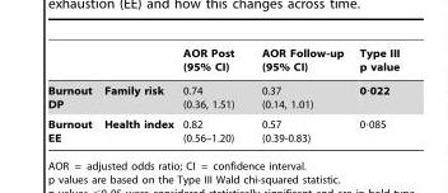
<table><thead><tr><td></td><td></td><td>AOR Post (95% CI)</td><td>AOR Follow-up (95% CI)</td><td>Type III p value</td></tr></thead><tbody><tr><td>Burnout DP</td><td>Family risk</td><td>0.74 (0.36, 1.51)</td><td>0.37 (0.14, 1.01)</td><td>0·022</td></tr><tr><td>Burnout EE</td><td>Health index</td><td>0.82 (0.56–1.20)</td><td>0.57 (0.39-0.83)</td><td>0·085</td></tr></tbody></table>